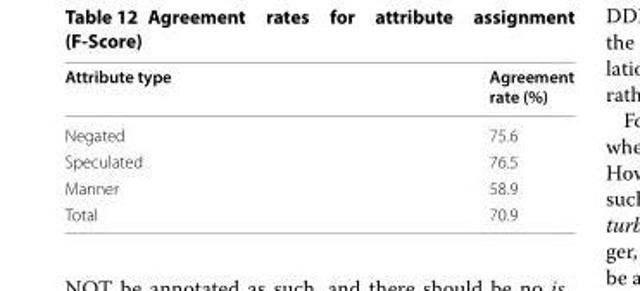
<table><thead><tr><td>Attribute type</td><td>Agreement rate (%)</td></tr></thead><tbody><tr><td>Negated</td><td>75.6</td></tr><tr><td>Speculated</td><td>76.5</td></tr><tr><td>Manner</td><td>58.9</td></tr><tr><td>Total</td><td>70.9</td></tr></tbody></table>